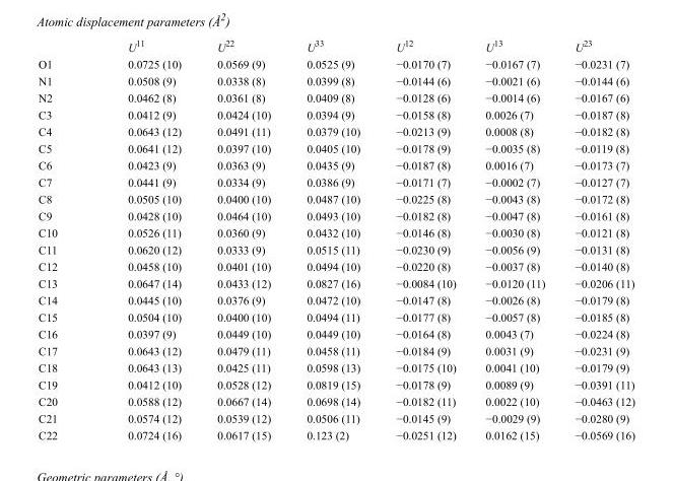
<table><thead><tr><td></td><td>U<sup>11</sup></td><td>U<sup>22</sup></td><td>U<sup>33</sup></td><td>U<sup>12</sup></td><td>U<sup>13</sup></td><td>U<sup>23</sup></td></tr></thead><tbody><tr><td>O1</td><td>0.0725 (10)</td><td>0.0569 (9)</td><td>0.0525 (9)</td><td>−0.0170 (7)</td><td>−0.0167 (7)</td><td>−0.0231 (7)</td></tr><tr><td>N1</td><td>0.0508 (9)</td><td>0.0338 (8)</td><td>0.0399 (8)</td><td>−0.0144 (6)</td><td>−0.0021 (6)</td><td>−0.0144 (6)</td></tr><tr><td>N2</td><td>0.0462 (8)</td><td>0.0361 (8)</td><td>0.0409 (8)</td><td>−0.0128 (6)</td><td>−0.0014 (6)</td><td>−0.0167 (6)</td></tr><tr><td>C3</td><td>0.0412 (9)</td><td>0.0424 (10)</td><td>0.0394 (9)</td><td>−0.0158 (8)</td><td>0.0026 (7)</td><td>−0.0187 (8)</td></tr><tr><td>C4</td><td>0.0643 (12)</td><td>0.0491 (11)</td><td>0.0379 (10)</td><td>−0.0213 (9)</td><td>0.0008 (8)</td><td>−0.0182 (8)</td></tr><tr><td>C5</td><td>0.0641 (12)</td><td>0.0397 (10)</td><td>0.0405 (10)</td><td>−0.0178 (9)</td><td>−0.0035 (8)</td><td>−0.0119 (8)</td></tr><tr><td>C6</td><td>0.0423 (9)</td><td>0.0363 (9)</td><td>0.0435 (9)</td><td>−0.0187 (8)</td><td>0.0016 (7)</td><td>−0.0173 (7)</td></tr><tr><td>C7</td><td>0.0441 (9)</td><td>0.0334 (9)</td><td>0.0386 (9)</td><td>−0.0171 (7)</td><td>−0.0002 (7)</td><td>−0.0127 (7)</td></tr><tr><td>C8</td><td>0.0505 (10)</td><td>0.0400 (10)</td><td>0.0487 (10)</td><td>−0.0225 (8)</td><td>−0.0043 (8)</td><td>−0.0172 (8)</td></tr><tr><td>C9</td><td>0.0428 (10)</td><td>0.0464 (10)</td><td>0.0493 (10)</td><td>−0.0182 (8)</td><td>−0.0047 (8)</td><td>−0.0161 (8)</td></tr><tr><td>C10</td><td>0.0526 (11)</td><td>0.0360 (9)</td><td>0.0432 (10)</td><td>−0.0146 (8)</td><td>−0.0030 (8)</td><td>−0.0121 (8)</td></tr><tr><td>C11</td><td>0.0620 (12)</td><td>0.0333 (9)</td><td>0.0515 (11)</td><td>−0.0230 (9)</td><td>−0.0056 (9)</td><td>−0.0131 (8)</td></tr><tr><td>C12</td><td>0.0458 (10)</td><td>0.0401 (10)</td><td>0.0494 (10)</td><td>−0.0220 (8)</td><td>−0.0037 (8)</td><td>−0.0140 (8)</td></tr><tr><td>C13</td><td>0.0647 (14)</td><td>0.0433 (12)</td><td>0.0827 (16)</td><td>−0.0084 (10)</td><td>−0.0120 (11)</td><td>−0.0206 (11)</td></tr><tr><td>C14</td><td>0.0445 (10)</td><td>0.0376 (9)</td><td>0.0472 (10)</td><td>−0.0147 (8)</td><td>−0.0026 (8)</td><td>−0.0179 (8)</td></tr><tr><td>C15</td><td>0.0504 (10)</td><td>0.0400 (10)</td><td>0.0494 (11)</td><td>−0.0177 (8)</td><td>−0.0057 (8)</td><td>−0.0185 (8)</td></tr><tr><td>C16</td><td>0.0397 (9)</td><td>0.0449 (10)</td><td>0.0449 (10)</td><td>−0.0164 (8)</td><td>0.0043 (7)</td><td>−0.0224 (8)</td></tr><tr><td>C17</td><td>0.0643 (12)</td><td>0.0479 (11)</td><td>0.0458 (11)</td><td>−0.0184 (9)</td><td>0.0031 (9)</td><td>−0.0231 (9)</td></tr><tr><td>C18</td><td>0.0643 (13)</td><td>0.0425 (11)</td><td>0.0598 (13)</td><td>−0.0175 (10)</td><td>0.0041 (10)</td><td>−0.0179 (9)</td></tr><tr><td>C19</td><td>0.0412 (10)</td><td>0.0528 (12)</td><td>0.0819 (15)</td><td>−0.0178 (9)</td><td>0.0089 (9)</td><td>−0.0391 (11)</td></tr><tr><td>C20</td><td>0.0588 (12)</td><td>0.0667 (14)</td><td>0.0698 (14)</td><td>−0.0182 (11)</td><td>0.0022 (10)</td><td>−0.0463 (12)</td></tr><tr><td>C21</td><td>0.0574 (12)</td><td>0.0539 (12)</td><td>0.0506 (11)</td><td>−0.0145 (9)</td><td>−0.0029 (9)</td><td>−0.0280 (9)</td></tr><tr><td>C22</td><td>0.0724 (16)</td><td>0.0617 (15)</td><td>0.123 (2)</td><td>−0.0251 (12)</td><td>0.0162 (15)</td><td>−0.0569 (16)</td></tr></tbody></table>